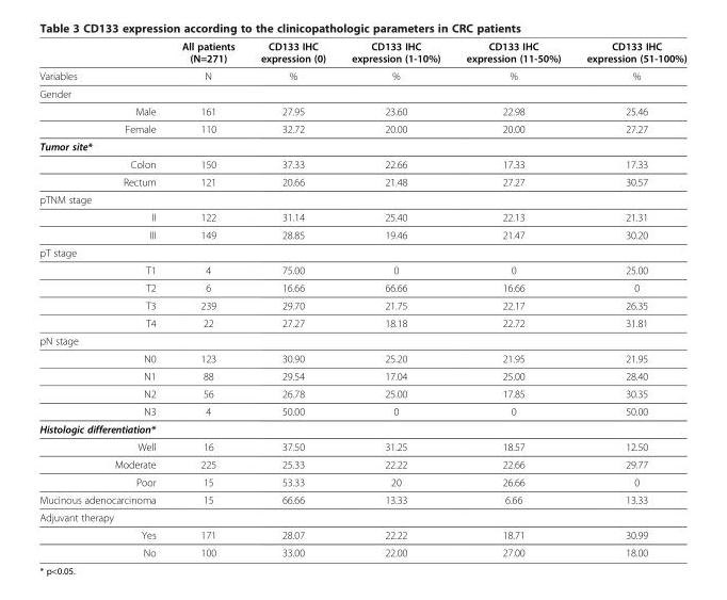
<table><thead><tr><td></td><td>All patients (N=271)</td><td>CD133 IHC expression (0)</td><td>CD133 IHC expression (1-10%)</td><td>CD133 IHC expression (11-50%)</td><td>CD133 IHC expression (51-100%)</td></tr></thead><tbody><tr><td>Variables</td><td>N</td><td>%</td><td>%</td><td>%</td><td>%</td></tr><tr><td colspan="6">Gender</td></tr><tr><td>Male</td><td>161</td><td>27.95</td><td>23.60</td><td>22.98</td><td>25.46</td></tr><tr><td>Female</td><td>110</td><td>32.72</td><td>20.00</td><td>20.00</td><td>27.27</td></tr><tr><td colspan="6">Tumor site*</td></tr><tr><td>Colon</td><td>150</td><td>37.33</td><td>22.66</td><td>17.33</td><td>17.33</td></tr><tr><td>Rectum</td><td>121</td><td>20.66</td><td>21.48</td><td>27.27</td><td>30.57</td></tr><tr><td colspan="6">pTNM stage</td></tr><tr><td>II</td><td>122</td><td>31.14</td><td>25.40</td><td>22.13</td><td>21.31</td></tr><tr><td>III</td><td>149</td><td>28.85</td><td>19.46</td><td>21.47</td><td>30.20</td></tr><tr><td colspan="6">pT stage</td></tr><tr><td>T1</td><td>4</td><td>75.00</td><td>0</td><td>0</td><td>25.00</td></tr><tr><td>T2</td><td>6</td><td>16.66</td><td>66.66</td><td>16.66</td><td>0</td></tr><tr><td>T3</td><td>239</td><td>29.70</td><td>21.75</td><td>22.17</td><td>26.35</td></tr><tr><td>T4</td><td>22</td><td>27.27</td><td>18.18</td><td>22.72</td><td>31.81</td></tr><tr><td colspan="6">pN stage</td></tr><tr><td>N0</td><td>123</td><td>30.90</td><td>25.20</td><td>21.95</td><td>21.95</td></tr><tr><td>N1</td><td>88</td><td>29.54</td><td>17.04</td><td>25.00</td><td>28.40</td></tr><tr><td>N2</td><td>56</td><td>26.78</td><td>25.00</td><td>17.85</td><td>30.35</td></tr><tr><td>N3</td><td>4</td><td>50.00</td><td>0</td><td>0</td><td>50.00</td></tr><tr><td colspan="6">Histologic differentiation*</td></tr><tr><td>Well</td><td>16</td><td>37.50</td><td>31.25</td><td>18.57</td><td>12.50</td></tr><tr><td>Moderate</td><td>225</td><td>25.33</td><td>22.22</td><td>22.66</td><td>29.77</td></tr><tr><td>Poor</td><td>15</td><td>53.33</td><td>20</td><td>26.66</td><td>0</td></tr><tr><td>Mucinous adenocarcinoma</td><td>15</td><td>66.66</td><td>13.33</td><td>6.66</td><td>13.33</td></tr><tr><td colspan="6">Adjuvant therapy</td></tr><tr><td>Yes</td><td>171</td><td>28.07</td><td>22.22</td><td>18.71</td><td>30.99</td></tr><tr><td>No</td><td>100</td><td>33.00</td><td>22.00</td><td>27.00</td><td>18.00</td></tr></tbody></table>